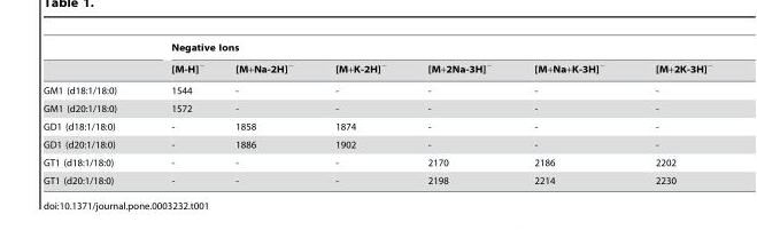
<table><thead><tr><td rowspan="2"></td><td colspan="6">Negative Ions</td></tr><tr><td>[M-H]<sup>−</sup></td><td>[M+Na-2H]<sup>−</sup></td><td>[M+K-2H]<sup>−</sup></td><td>[M+2Na-3H]<sup>−</sup></td><td>[M+Na+K-3H]<sup>−</sup></td><td>[M+2K-3H]<sup>−</sup></td></tr></thead><tbody><tr><td>GM1 (d18:1/18:0)</td><td>1544</td><td>-</td><td>-</td><td>-</td><td>-</td><td>-</td></tr><tr><td>GM1 (d20:1/18:0)</td><td>1572</td><td>-</td><td>-</td><td>-</td><td>-</td><td>-</td></tr><tr><td>GD1 (d18:1/18:0)</td><td>-</td><td>1858</td><td>1874</td><td>-</td><td>-</td><td>-</td></tr><tr><td>GD1 (d20:1/18:0)</td><td>-</td><td>1886</td><td>1902</td><td>-</td><td>-</td><td>-</td></tr><tr><td>GT1 (d18:1/18:0)</td><td>-</td><td>-</td><td>-</td><td>2170</td><td>2186</td><td>2202</td></tr><tr><td>GT1 (d20:1/18:0)</td><td>-</td><td>-</td><td>-</td><td>2198</td><td>2214</td><td>2230</td></tr></tbody></table>